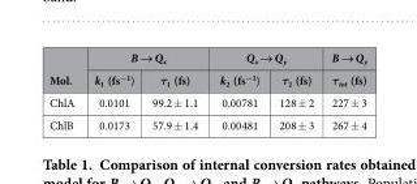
<table><thead><tr><td rowspan="2">Mol.</td><td colspan="2">B → Qx</td><td colspan="2">Qx → Qy</td><td rowspan="2">B → Qy τtot (fs)</td></tr><tr><td>k<sub>1</sub> (fs<sup>−1</sup>)</td><td>τ<sub>1</sub> (fs)</td><td>k<sub>2</sub> (fs<sup>−1</sup>)</td><td>τ<sub>2</sub> (fs)</td></tr></thead><tbody><tr><td>ChlA</td><td>0.0101</td><td>99.2 ± 1.1</td><td>0.00781</td><td>128 ± 2</td><td>227 ± 3</td></tr><tr><td>ChlB</td><td>0.0173</td><td>57.9 ± 1.4</td><td>0.00481</td><td>208 ± 3</td><td>267 ± 4</td></tr></tbody></table>